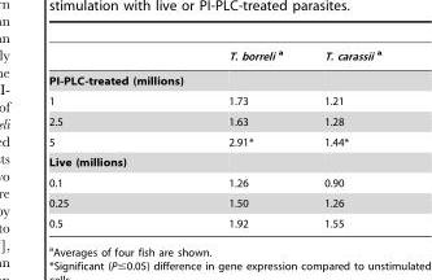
<table><thead><tr><td></td><td>T. borreli a</td><td>T. carassii a</td></tr></thead><tbody><tr><td colspan="3">PI-PLC-treated (millions)</td></tr><tr><td>1</td><td>1.73</td><td>1.21</td></tr><tr><td>2.5</td><td>1.63</td><td>1.28</td></tr><tr><td>5</td><td>2.91*</td><td>1.44*</td></tr><tr><td colspan="3">Live (millions)</td></tr><tr><td>0.1</td><td>1.26</td><td>0.90</td></tr><tr><td>0.25</td><td>1.50</td><td>1.26</td></tr><tr><td>0.5</td><td>1.92</td><td>1.55</td></tr></tbody></table>